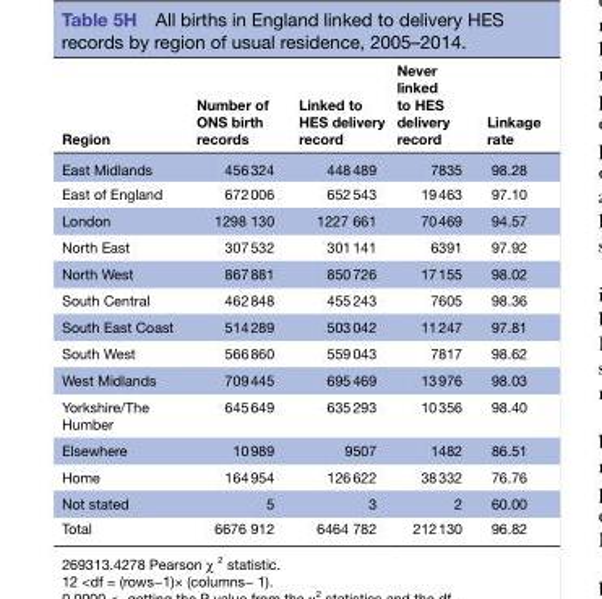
<table><thead><tr><td>Region</td><td>Number of ONS birth records</td><td>Linked to HES delivery record</td><td>Never linked to HES delivery record</td><td>Linkage rate</td></tr></thead><tbody><tr><td>East Midlands</td><td>456 324</td><td>448 489</td><td>7835</td><td>98.28</td></tr><tr><td>East of England</td><td>672 006</td><td>652 543</td><td>19 463</td><td>97.10</td></tr><tr><td>London</td><td>1298 130</td><td>1227 661</td><td>70 469</td><td>94.57</td></tr><tr><td>North East</td><td>307 532</td><td>301 141</td><td>6391</td><td>97.92</td></tr><tr><td>North West</td><td>867 881</td><td>850 726</td><td>17 155</td><td>98.02</td></tr><tr><td>South Central</td><td>462 848</td><td>455 243</td><td>7605</td><td>98.36</td></tr><tr><td>South East Coast</td><td>514 289</td><td>503 042</td><td>11 247</td><td>97.81</td></tr><tr><td>South West</td><td>566 860</td><td>559 043</td><td>7817</td><td>98.62</td></tr><tr><td>West Midlands</td><td>709 445</td><td>695 469</td><td>13 976</td><td>98.03</td></tr><tr><td>Yorkshire/The Humber</td><td>645 649</td><td>635 293</td><td>10 356</td><td>98.40</td></tr><tr><td>Elsewhere</td><td>10 989</td><td>9507</td><td>1482</td><td>86.51</td></tr><tr><td>Home</td><td>164 954</td><td>126 622</td><td>38 332</td><td>76.76</td></tr><tr><td>Not stated</td><td>5</td><td>3</td><td>2</td><td>60.00</td></tr><tr><td>Total</td><td>6676 912</td><td>6464 782</td><td>212 130</td><td>96.82</td></tr></tbody></table>